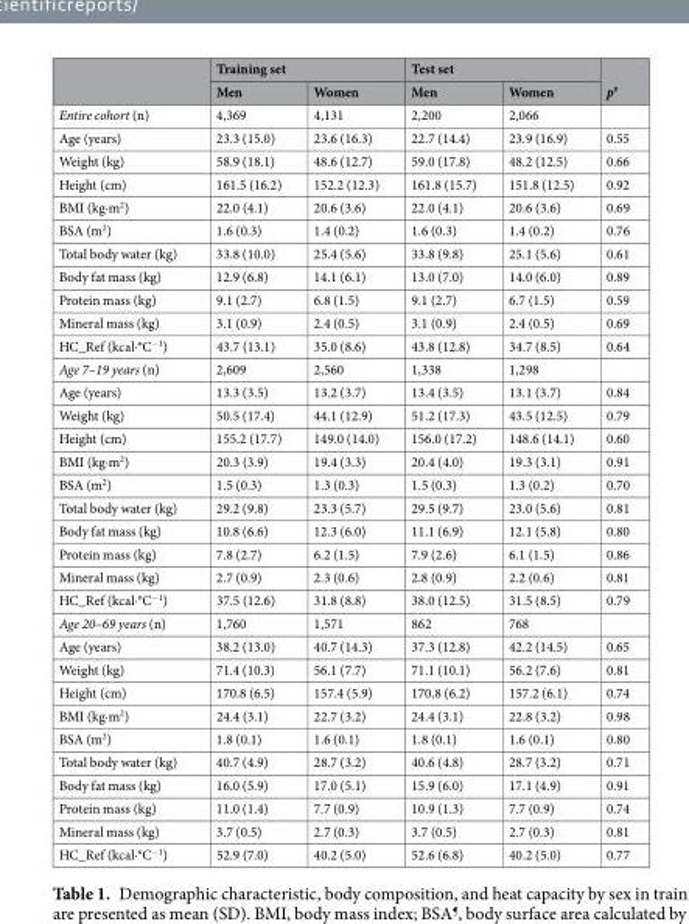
<table><thead><tr><td rowspan="2"></td><td colspan="2">Training set</td><td colspan="2">Test set</td><td rowspan="2">p<sup>#</sup></td></tr><tr><td>Men</td><td>Women</td><td>Men</td><td>Women</td></tr></thead><tbody><tr><td>Entire cohort (n)</td><td>4,369</td><td>4,131</td><td>2,200</td><td>2,066</td><td></td></tr><tr><td>Age (years)</td><td>23.3 (15.0)</td><td>23.6 (16.3)</td><td>22.7 (14.4)</td><td>23.9 (16.9)</td><td>0.55</td></tr><tr><td>Weight (kg)</td><td>58.9 (18.1)</td><td>48.6 (12.7)</td><td>59.0 (17.8)</td><td>48.2 (12.5)</td><td>0.66</td></tr><tr><td>Height (cm)</td><td>161.5 (16.2)</td><td>152.2 (12.3)</td><td>161.8 (15.7)</td><td>151.8 (12.5)</td><td>0.92</td></tr><tr><td>BMI (kg∙m<sup>2</sup>)</td><td>22.0 (4.1)</td><td>20.6 (3.6)</td><td>22.0 (4.1)</td><td>20.6 (3.6)</td><td>0.69</td></tr><tr><td>BSA (m<sup>2</sup>)</td><td>1.6 (0.3)</td><td>1.4 (0.2)</td><td>1.6 (0.3)</td><td>1.4 (0.2)</td><td>0.76</td></tr><tr><td>Total body water (kg)</td><td>33.8 (10.0)</td><td>25.4 (5.6)</td><td>33.8 (9.8)</td><td>25.1 (5.6)</td><td>0.61</td></tr><tr><td>Body fat mass (kg)</td><td>12.9 (6.8)</td><td>14.1 (6.1)</td><td>13.0 (7.0)</td><td>14.0 (6.0)</td><td>0.89</td></tr><tr><td>Protein mass (kg)</td><td>9.1 (2.7)</td><td>6.8 (1.5)</td><td>9.1 (2.7)</td><td>6.7 (1.5)</td><td>0.59</td></tr><tr><td>Mineral mass (kg)</td><td>3.1 (0.9)</td><td>2.4 (0.5)</td><td>3.1 (0.9)</td><td>2.4 (0.5)</td><td>0.69</td></tr><tr><td>HC_Ref (kcal∙°C<sup>−1</sup>)</td><td>43.7 (13.1)</td><td>35.0 (8.6)</td><td>43.8 (12.8)</td><td>34.7 (8.5)</td><td>0.64</td></tr><tr><td>Age 7–19 years (n)</td><td>2,609</td><td>2,560</td><td>1,338</td><td>1,298</td><td></td></tr><tr><td>Age (years)</td><td>13.3 (3.5)</td><td>13.2 (3.7)</td><td>13.4 (3.5)</td><td>13.1 (3.7)</td><td>0.84</td></tr><tr><td>Weight (kg)</td><td>50.5 (17.4)</td><td>44.1 (12.9)</td><td>51.2 (17.3)</td><td>43.5 (12.5)</td><td>0.79</td></tr><tr><td>Height (cm)</td><td>155.2 (17.7)</td><td>149.0 (14.0)</td><td>156.0 (17.2)</td><td>148.6 (14.1)</td><td>0.60</td></tr><tr><td>BMI (kg∙m<sup>2</sup>)</td><td>20.3 (3.9)</td><td>19.4 (3.3)</td><td>20.4 (4.0)</td><td>19.3 (3.1)</td><td>0.91</td></tr><tr><td>BSA (m<sup>2</sup>)</td><td>1.5 (0.3)</td><td>1.3 (0.3)</td><td>1.5 (0.3)</td><td>1.3 (0.2)</td><td>0.70</td></tr><tr><td>Total body water (kg)</td><td>29.2 (9.8)</td><td>23.3 (5.7)</td><td>29.5 (9.7)</td><td>23.0 (5.6)</td><td>0.81</td></tr><tr><td>Body fat mass (kg)</td><td>10.8 (6.6)</td><td>12.3 (6.0)</td><td>11.1 (6.9)</td><td>12.1 (5.8)</td><td>0.80</td></tr><tr><td>Protein mass (kg)</td><td>7.8 (2.7)</td><td>6.2 (1.5)</td><td>7.9 (2.6)</td><td>6.1 (1.5)</td><td>0.86</td></tr><tr><td>Mineral mass (kg)</td><td>2.7 (0.9)</td><td>2.3 (0.6)</td><td>2.8 (0.9)</td><td>2.2 (0.6)</td><td>0.81</td></tr><tr><td>HC_Ref (kcal∙°C<sup>−1</sup>)</td><td>37.5 (12.6)</td><td>31.8 (8.8)</td><td>38.0 (12.5)</td><td>31.5 (8.5)</td><td>0.79</td></tr><tr><td>Age 20–69 years (n)</td><td>1,760</td><td>1,571</td><td>862</td><td>768</td><td></td></tr><tr><td>Age (years)</td><td>38.2 (13.0)</td><td>40.7 (14.3)</td><td>37.3 (12.8)</td><td>42.2 (14.5)</td><td>0.65</td></tr><tr><td>Weight (kg)</td><td>71.4 (10.3)</td><td>56.1 (7.7)</td><td>71.1 (10.1)</td><td>56.2 (7.6)</td><td>0.81</td></tr><tr><td>Height (cm)</td><td>170.8 (6.5)</td><td>157.4 (5.9)</td><td>170.8 (6.2)</td><td>157.2 (6.1)</td><td>0.74</td></tr><tr><td>BMI (kg∙m<sup>2</sup>)</td><td>24.4 (3.1)</td><td>22.7 (3.2)</td><td>24.4 (3.1)</td><td>22.8 (3.2)</td><td>0.98</td></tr><tr><td>BSA (m<sup>2</sup>)</td><td>1.8 (0.1)</td><td>1.6 (0.1)</td><td>1.8 (0.1)</td><td>1.6 (0.1)</td><td>0.80</td></tr><tr><td>Total body water (kg)</td><td>40.7 (4.9)</td><td>28.7 (3.2)</td><td>40.6 (4.8)</td><td>28.7 (3.2)</td><td>0.71</td></tr><tr><td>Body fat mass (kg)</td><td>16.0 (5.9)</td><td>17.0 (5.1)</td><td>15.9 (6.0)</td><td>17.1 (4.9)</td><td>0.91</td></tr><tr><td>Protein mass (kg)</td><td>11.0 (1.4)</td><td>7.7 (0.9)</td><td>10.9 (1.3)</td><td>7.7 (0.9)</td><td>0.74</td></tr><tr><td>Mineral mass (kg)</td><td>3.7 (0.5)</td><td>2.7 (0.3)</td><td>3.7 (0.5)</td><td>2.7 (0.3)</td><td>0.81</td></tr><tr><td>HC_Ref (kcal∙°C<sup>−1</sup>)</td><td>52.9 (7.0)</td><td>40.2 (5.0)</td><td>52.6 (6.8)</td><td>40.2 (5.0)</td><td>0.77</td></tr></tbody></table>